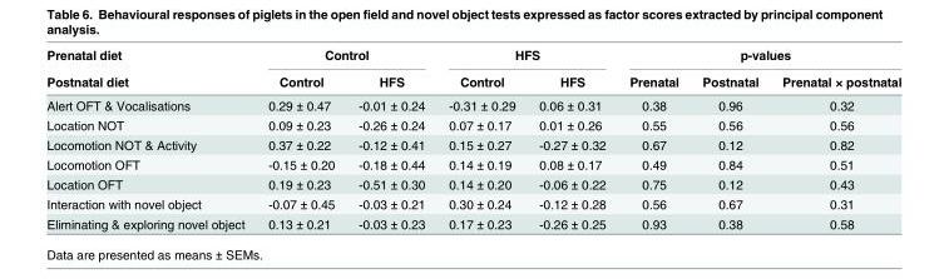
<table><thead><tr><td rowspan="2">Prenatal diet Postnatal diet</td><td colspan="2">Control</td><td colspan="2">HFS</td><td colspan="3">p-values</td></tr><tr><td>Control</td><td>HFS</td><td>Control</td><td>HFS</td><td>Prenatal</td><td>Postnatal</td><td>Prenatal × postnatal</td></tr></thead><tbody><tr><td>Alert OFT &amp; Vocalisations</td><td>0.29 ± 0.47</td><td>-0.01 ± 0.24</td><td>-0.31 ± 0.29</td><td>0.06 ± 0.31</td><td>0.38</td><td>0.96</td><td>0.32</td></tr><tr><td>Location NOT</td><td>0.09 ± 0.23</td><td>-0.26 ± 0.24</td><td>0.07 ± 0.17</td><td>0.01 ± 0.26</td><td>0.55</td><td>0.56</td><td>0.56</td></tr><tr><td>Locomotion NOT &amp; Activity</td><td>0.37 ± 0.22</td><td>-0.12 ± 0.41</td><td>0.15 ± 0.27</td><td>-0.27 ± 0.32</td><td>0.67</td><td>0.12</td><td>0.82</td></tr><tr><td>Locomotion OFT</td><td>-0.15 ± 0.20</td><td>-0.18 ± 0.44</td><td>0.14 ± 0.19</td><td>0.08 ± 0.17</td><td>0.49</td><td>0.84</td><td>0.51</td></tr><tr><td>Location OFT</td><td>0.19 ± 0.23</td><td>-0.51 ± 0.30</td><td>0.14 ± 0.20</td><td>-0.06 ± 0.22</td><td>0.75</td><td>0.12</td><td>0.43</td></tr><tr><td>Interaction with novel object</td><td>-0.07 ± 0.45</td><td>-0.03 ± 0.21</td><td>0.30 ± 0.24</td><td>-0.12 ± 0.28</td><td>0.56</td><td>0.67</td><td>0.31</td></tr><tr><td>Eliminating &amp; exploring novel object</td><td>0.13 ± 0.21</td><td>-0.03 ± 0.23</td><td>0.17 ± 0.23</td><td>-0.26 ± 0.25</td><td>0.93</td><td>0.38</td><td>0.58</td></tr></tbody></table>